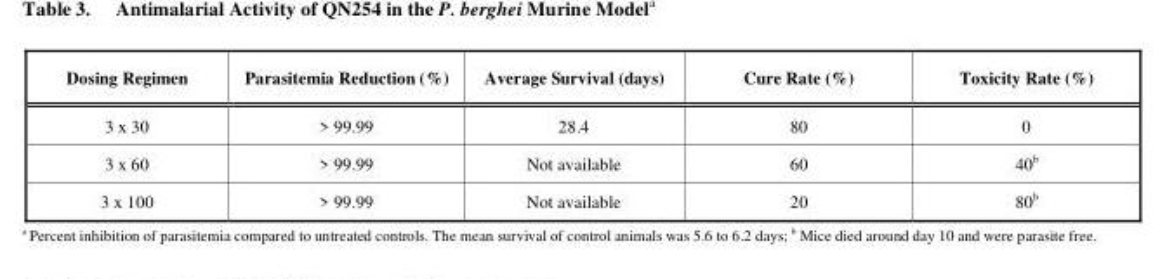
<table><thead><tr><td>Dosing Regimen</td><td>Parasitemia Reduction (%)</td><td>Average Survival (days)</td><td>Cure Rate (%)</td><td>Toxicity Rate (%)</td></tr></thead><tbody><tr><td>3 x 30</td><td>&gt; 99.99</td><td>28.4</td><td>80</td><td>0</td></tr><tr><td>3 x 60</td><td>&gt; 99.99</td><td>Not available</td><td>60</td><td>40<sup>b</sup></td></tr><tr><td>3 x 100</td><td>&gt; 99.99</td><td>Not available</td><td>20</td><td>80<sup>b</sup></td></tr></tbody></table>